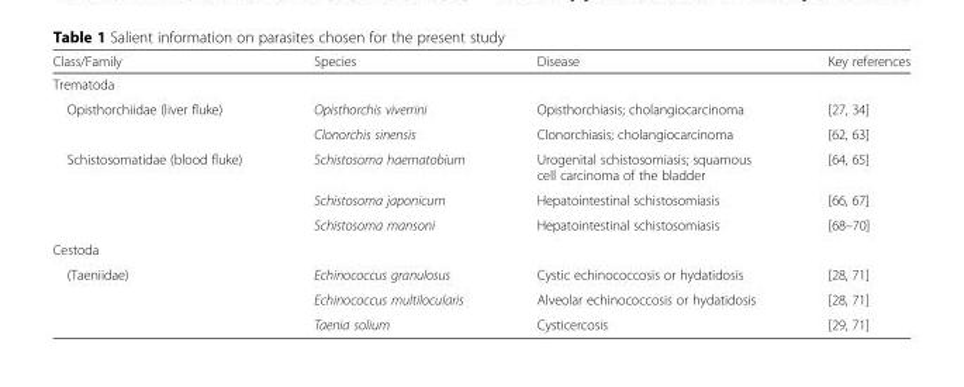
<table><thead><tr><td>Class/Family</td><td>Species</td><td>Disease</td><td>Key references</td></tr></thead><tbody><tr><td colspan="4">Trematoda</td></tr><tr><td rowspan="2">Opisthorchiidae (liver fluke)</td><td>Opisthorchis viverrini</td><td>Opisthorchiasis; cholangiocarcinoma</td><td>[27, 34]</td></tr><tr><td>Clonorchis sinensis</td><td>Clonorchiasis; cholangiocarcinoma</td><td>[62, 63]</td></tr><tr><td rowspan="3">Schistosomatidae (blood fluke)</td><td>Schistosoma haematobium</td><td>Urogenital schistosomiasis; squamous cell carcinoma of the bladder</td><td>[64, 65]</td></tr><tr><td>Schistosoma japonicum</td><td>Hepatointestinal schistosomiasis</td><td>[66, 67]</td></tr><tr><td>Schistosoma mansoni</td><td>Hepatointestinal schistosomiasis</td><td>[68–70]</td></tr><tr><td colspan="4">Cestoda</td></tr><tr><td rowspan="3">(Taeniidae)</td><td>Echinococcus granulosus</td><td>Cystic echinococcosis or hydatidosis</td><td>[28, 71]</td></tr><tr><td>Echinococcus multilocularis</td><td>Alveolar echinococcosis or hydatidosis</td><td>[28, 71]</td></tr><tr><td>Taenia solium</td><td>Cysticercosis</td><td>[29, 71]</td></tr></tbody></table>